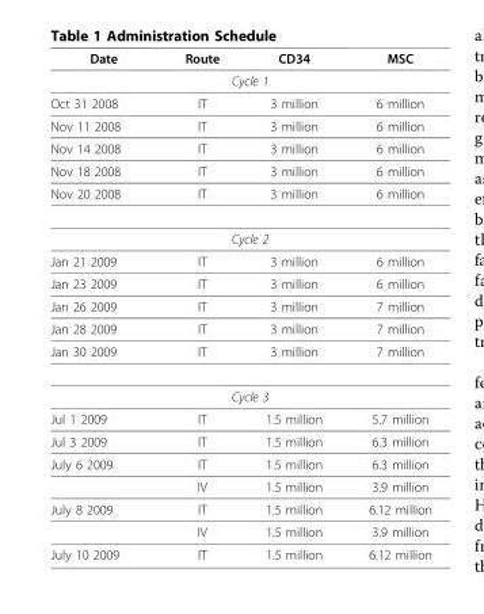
<table><thead><tr><td>Date</td><td>Route</td><td>CD34</td><td>MSC</td></tr></thead><tbody><tr><td colspan="4">Cycle 1</td></tr><tr><td>Oct 31 2008</td><td>IT</td><td>3 million</td><td>6 million</td></tr><tr><td>Nov 11 2008</td><td>IT</td><td>3 million</td><td>6 million</td></tr><tr><td>Nov 14 2008</td><td>IT</td><td>3 million</td><td>6 million</td></tr><tr><td>Nov 18 2008</td><td>IT</td><td>3 million</td><td>6 million</td></tr><tr><td>Nov 20 2008</td><td>IT</td><td>3 million</td><td>6 million</td></tr><tr><td colspan="4">Cycle 2</td></tr><tr><td>Jan 21 2009</td><td>IT</td><td>3 million</td><td>6 million</td></tr><tr><td>Jan 23 2009</td><td>IT</td><td>3 million</td><td>6 million</td></tr><tr><td>Jan 26 2009</td><td>IT</td><td>3 million</td><td>7 million</td></tr><tr><td>Jan 28 2009</td><td>IT</td><td>3 million</td><td>7 million</td></tr><tr><td>Jan 30 2009</td><td>IT</td><td>3 million</td><td>7 million</td></tr><tr><td colspan="4">Cycle 3</td></tr><tr><td>Jul 1 2009</td><td>IT</td><td>1.5 million</td><td>5.7 million</td></tr><tr><td>Jul 3 2009</td><td>IT</td><td>1.5 million</td><td>6.3 million</td></tr><tr><td rowspan="2">July 6 2009</td><td>IT</td><td>1.5 million</td><td>6.3 million</td></tr><tr><td>IV</td><td>1.5 million</td><td>3.9 million</td></tr><tr><td rowspan="2">July 8 2009</td><td>IT</td><td>1.5 million</td><td>6.12 million</td></tr><tr><td>IV</td><td>1.5 million</td><td>3.9 million</td></tr><tr><td>July 10 2009</td><td>IT</td><td>1.5 million</td><td>6.12 million</td></tr></tbody></table>